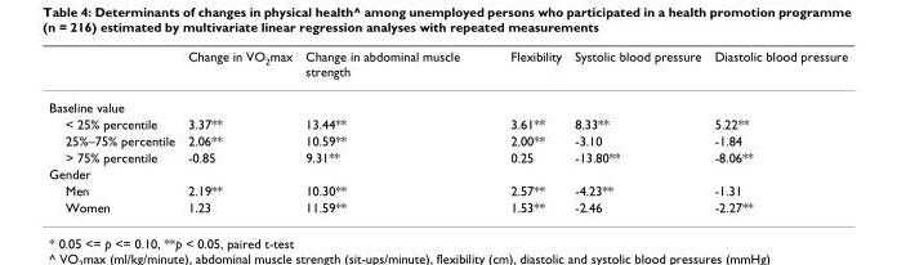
<table><thead><tr><td></td><td>Change in VO<sub>2</sub>max</td><td>Change in abdominal muscle strength</td><td>Flexibility</td><td>Systolic blood pressure</td><td>Diastolic blood pressure</td></tr></thead><tbody><tr><td colspan="6">Baseline value</td></tr><tr><td>&lt; 25% percentile</td><td>3.37**</td><td>13.44**</td><td>3.61**</td><td>8.33**</td><td>5.22**</td></tr><tr><td>25%–75% percentile</td><td>2.06**</td><td>10.59**</td><td>2.00**</td><td>-3.10</td><td>-1.84</td></tr><tr><td>&gt; 75% percentile</td><td>-0.85</td><td>9.31**</td><td>0.25</td><td>-13.80**</td><td>-8.06**</td></tr><tr><td colspan="6">Gender</td></tr><tr><td>Men</td><td>2.19**</td><td>10.30**</td><td>2.57**</td><td>-4.23**</td><td>-1.31</td></tr><tr><td>Women</td><td>1.23</td><td>11.59**</td><td>1.53**</td><td>-2.46</td><td>-2.27**</td></tr></tbody></table>